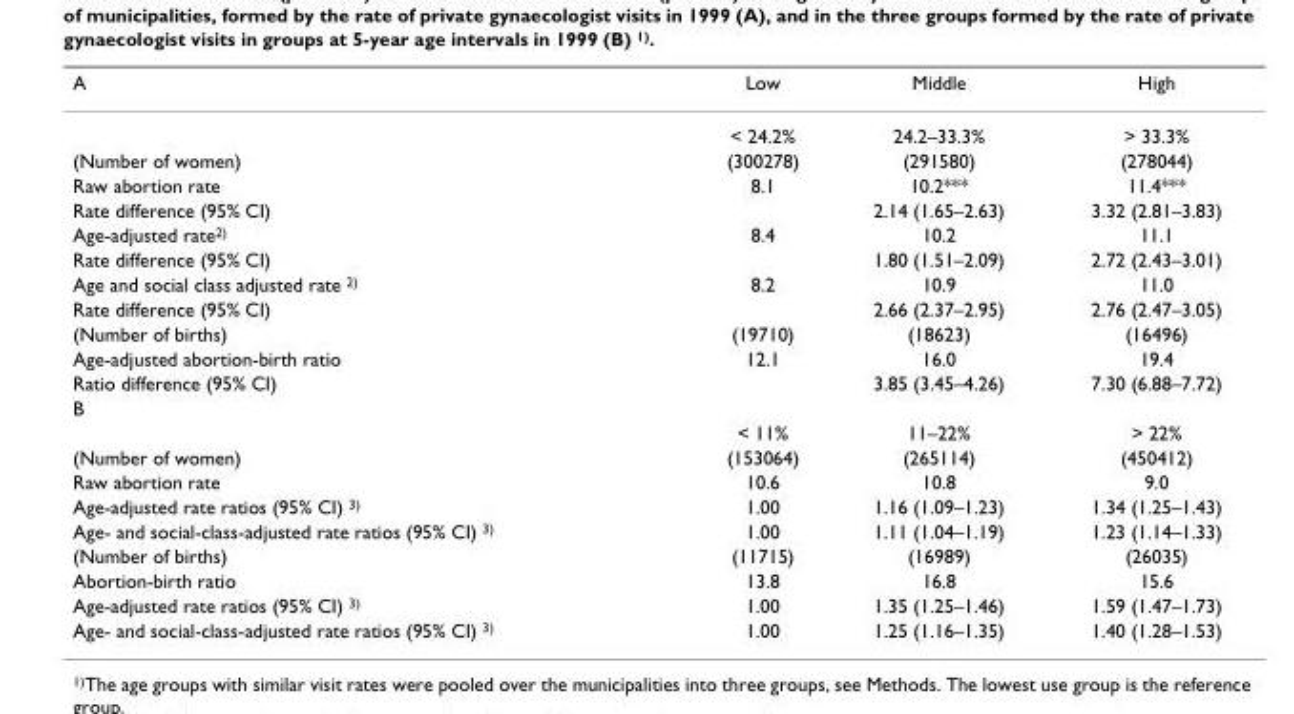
<table><thead><tr><td>A</td><td>Low</td><td>Middle</td><td>High</td></tr></thead><tbody><tr><td></td><td>&lt; 24.2%</td><td>24.2–33.3%</td><td>&gt; 33.3%</td></tr><tr><td>(Number of women)</td><td>(300278)</td><td>(291580)</td><td>(278044)</td></tr><tr><td>Raw abortion rate</td><td>8.1</td><td>10.2***</td><td>11.4***</td></tr><tr><td>Rate difference (95% CI)</td><td></td><td>2.14 (1.65–2.63)</td><td>3.32 (2.81–3.83)</td></tr><tr><td>Age-adjusted rate2)</td><td>8.4</td><td>10.2</td><td>11.1</td></tr><tr><td>Rate difference (95% CI)</td><td></td><td>1.80 (1.51–2.09)</td><td>2.72 (2.43–3.01)</td></tr><tr><td>Age and social class adjusted rate 2)</td><td>8.2</td><td>10.9</td><td>11.0</td></tr><tr><td>Rate difference (95% CI)</td><td></td><td>2.66 (2.37–2.95)</td><td>2.76 (2.47–3.05)</td></tr><tr><td>(Number of births)</td><td>(19710)</td><td>(18623)</td><td>(16496)</td></tr><tr><td>Age-adjusted abortion-birth ratio</td><td>12.1</td><td>16.0</td><td>19.4</td></tr><tr><td>Ratio difference (95% CI)</td><td></td><td>3.85 (3.45–4.26)</td><td>7.30 (6.88–7.72)</td></tr><tr><td colspan="4">B</td></tr><tr><td></td><td>&lt; 11%</td><td>11–22%</td><td>&gt; 22%</td></tr><tr><td>(Number of women)</td><td>(153064)</td><td>(265114)</td><td>(450412)</td></tr><tr><td>Raw abortion rate</td><td>10.6</td><td>10.8</td><td>9.0</td></tr><tr><td>Age-adjusted rate ratios (95% CI) 3)</td><td>1.00</td><td>1.16 (1.09–1.23)</td><td>1.34 (1.25–1.43)</td></tr><tr><td>Age- and social-class-adjusted rate ratios (95% CI) 3)</td><td>1.00</td><td>1.11 (1.04–1.19)</td><td>1.23 (1.14–1.33)</td></tr><tr><td>(Number of births)</td><td>(11715)</td><td>(16989)</td><td>(26035)</td></tr><tr><td>Abortion-birth ratio</td><td>13.8</td><td>16.8</td><td>15.6</td></tr><tr><td>Age-adjusted rate ratios (95% CI) 3)</td><td>1.00</td><td>1.35 (1.25–1.46)</td><td>1.59 (1.47–1.73)</td></tr><tr><td>Age- and social-class-adjusted rate ratios (95% CI) 3)</td><td>1.00</td><td>1.25 (1.16–1.35)</td><td>1.40 (1.28–1.53)</td></tr></tbody></table>